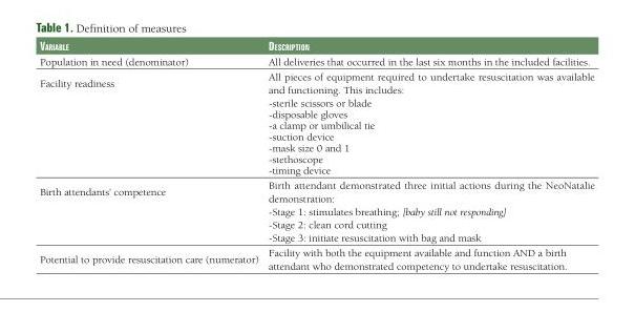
<table><thead><tr><td>Variable</td><td>Description</td></tr></thead><tbody><tr><td>Population in need (denominator)</td><td>All deliveries that occurred in the last six months in the included facilities.</td></tr><tr><td rowspan="8">Facility readiness</td><td>All pieces of equipment required to undertake resuscitation was available and functioning. This includes:</td></tr><tr><td>-sterile scissors or blade</td></tr><tr><td>-disposable gloves</td></tr><tr><td>-a clamp or umbilical tie</td></tr><tr><td>-suction device</td></tr><tr><td>-mask size 0 and 1</td></tr><tr><td>-stethoscope</td></tr><tr><td>-timing device</td></tr><tr><td rowspan="4">Birth attendants’ competence</td><td>Birth attendant demonstrated three initial actions during the NeoNatalie demonstration:</td></tr><tr><td>-Stage 1: stimulates breathing; [baby still not responding]</td></tr><tr><td>-Stage 2: clean cord cutting</td></tr><tr><td>-Stage 3: initiate resuscitation with bag and mask</td></tr><tr><td>Potential to provide resuscitation care (numerator)</td><td>Facility with both the equipment available and function AND a birth attendant who demonstrated competency to undertake resuscitation.</td></tr></tbody></table>